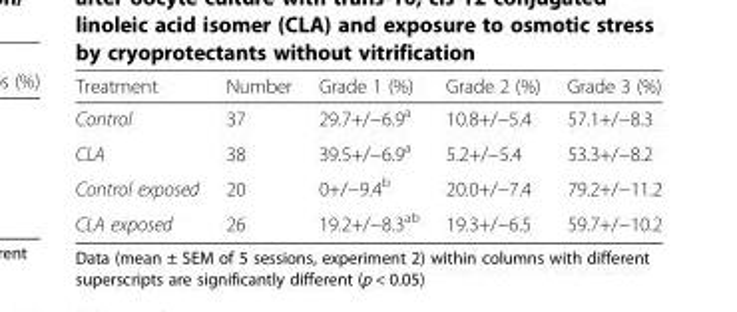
<table><thead><tr><td>Treatment</td><td>Number</td><td>Grade 1 (%)</td><td>Grade 2 (%)</td><td>Grade 3 (%)</td></tr></thead><tbody><tr><td>Control</td><td>37</td><td>29.7+/−6.9<sup>a</sup></td><td>10.8+/−5.4</td><td>57.1+/−8.3</td></tr><tr><td>CLA</td><td>38</td><td>39.5+/−6.9<sup>a</sup></td><td>5.2+/−5.4</td><td>53.3+/−8.2</td></tr><tr><td>Control exposed</td><td>20</td><td>0+/−9.4<sup>b</sup></td><td>20.0+/−7.4</td><td>79.2+/−11.2</td></tr><tr><td>CLA exposed</td><td>26</td><td>19.2+/−8.3<sup>ab</sup></td><td>19.3+/−6.5</td><td>59.7+/−10.2</td></tr></tbody></table>